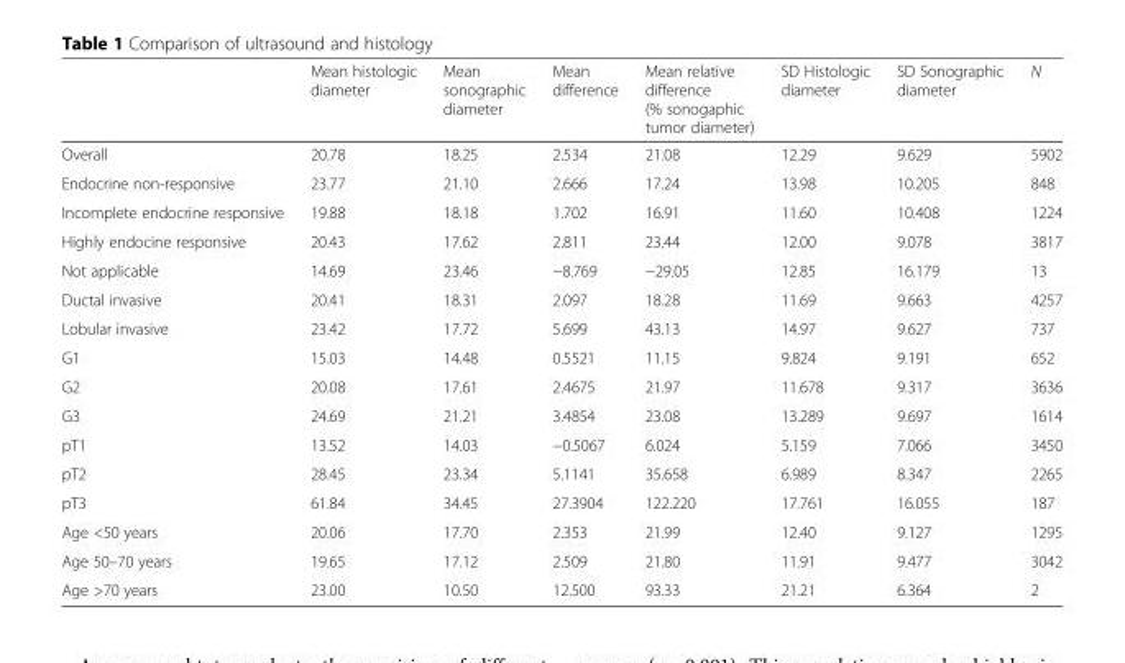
<table><thead><tr><td></td><td>Mean histologic diameter</td><td>Mean sonographic diameter</td><td>Mean difference</td><td>Mean relative difference (% sonogaphic tumor diameter)</td><td>SD Histologic diameter</td><td>SD Sonographic diameter</td><td>N</td></tr></thead><tbody><tr><td>Overall</td><td>20.78</td><td>18.25</td><td>2.534</td><td>21.08</td><td>12.29</td><td>9.629</td><td>5902</td></tr><tr><td>Endocrine non-responsive</td><td>23.77</td><td>21.10</td><td>2.666</td><td>17.24</td><td>13.98</td><td>10.205</td><td>848</td></tr><tr><td>Incomplete endocrine responsive</td><td>19.88</td><td>18.18</td><td>1.702</td><td>16.91</td><td>11.60</td><td>10.408</td><td>1224</td></tr><tr><td>Highly endocine responsive</td><td>20.43</td><td>17.62</td><td>2.811</td><td>23.44</td><td>12.00</td><td>9.078</td><td>3817</td></tr><tr><td>Not applicable</td><td>14.69</td><td>23.46</td><td>−8.769</td><td>−29.05</td><td>12.85</td><td>16.179</td><td>13</td></tr><tr><td>Ductal invasive</td><td>20.41</td><td>18.31</td><td>2.097</td><td>18.28</td><td>11.69</td><td>9.663</td><td>4257</td></tr><tr><td>Lobular invasive</td><td>23.42</td><td>17.72</td><td>5.699</td><td>43.13</td><td>14.97</td><td>9.627</td><td>737</td></tr><tr><td>G1</td><td>15.03</td><td>14.48</td><td>0.5521</td><td>11.15</td><td>9.824</td><td>9.191</td><td>652</td></tr><tr><td>G2</td><td>20.08</td><td>17.61</td><td>2.4675</td><td>21.97</td><td>11.678</td><td>9.317</td><td>3636</td></tr><tr><td>G3</td><td>24.69</td><td>21.21</td><td>3.4854</td><td>23.08</td><td>13.289</td><td>9.697</td><td>1614</td></tr><tr><td>pT1</td><td>13.52</td><td>14.03</td><td>−0.5067</td><td>6.024</td><td>5.159</td><td>7.066</td><td>3450</td></tr><tr><td>pT2</td><td>28.45</td><td>23.34</td><td>5.1141</td><td>35.658</td><td>6.989</td><td>8.347</td><td>2265</td></tr><tr><td>pT3</td><td>61.84</td><td>34.45</td><td>27.3904</td><td>122.220</td><td>17.761</td><td>16.055</td><td>187</td></tr><tr><td>Age &lt;50 years</td><td>20.06</td><td>17.70</td><td>2.353</td><td>21.99</td><td>12.40</td><td>9.127</td><td>1295</td></tr><tr><td>Age 50–70 years</td><td>19.65</td><td>17.12</td><td>2.509</td><td>21.80</td><td>11.91</td><td>9.477</td><td>3042</td></tr><tr><td>Age &gt;70 years</td><td>23.00</td><td>10.50</td><td>12.500</td><td>93.33</td><td>21.21</td><td>6.364</td><td>2</td></tr></tbody></table>